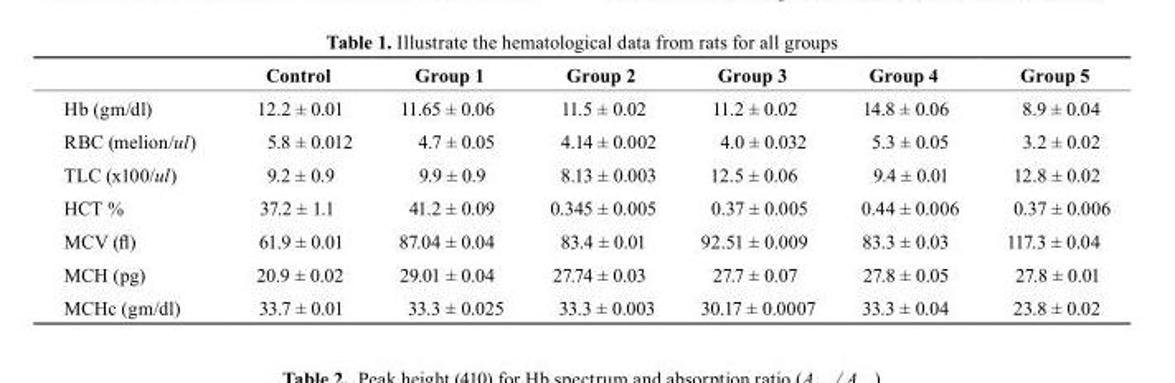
<table><thead><tr><td></td><td>control</td><td>Group 1</td><td>Group 2</td><td>Group 3</td><td>Group 4</td><td>Group 5</td></tr></thead><tbody><tr><td>Hb (gm/dl)</td><td>12.2 ± 0.01</td><td>11.65 ± 0.06</td><td>11.5 ± 0.02</td><td>11.2 ± 0.02</td><td>14.8 ± 0.06</td><td>8.9 ± 0.04</td></tr><tr><td>RBC (melion/ul)</td><td>5.8 ± 0.012</td><td>4.7 ± 0.05</td><td>4.14 ± 0.002</td><td>4.0 ± 0.032</td><td>5.3 ± 0.05</td><td>3.2 ± 0.02</td></tr><tr><td>TLC (x100/ul)</td><td>9.2 ± 0.9</td><td>9.9 ± 0.9</td><td>8.13 ± 0.003</td><td>12.5 ± 0.06</td><td>9.4 ± 0.01</td><td>12.8 ± 0.02</td></tr><tr><td>HCT %</td><td>37.2 ± 1.1</td><td>41.2 ± 0.09</td><td>0.345 ± 0.005</td><td>0.37 ± 0.005</td><td>0.44 ± 0.006</td><td>0.37 ± 0.006</td></tr><tr><td>MCV (fl)</td><td>61.9 ± 0.01</td><td>87.04 ± 0.04</td><td>83.4 ± 0.01</td><td>92.51 ± 0.009</td><td>83.3 ± 0.03</td><td>117.3 ± 0.04</td></tr><tr><td>MCH (pg)</td><td>20.9 ± 0.02</td><td>29.01 ± 0.04</td><td>27.74 ± 0.03</td><td>27.7 ± 0.07</td><td>27.8 ± 0.05</td><td>27.8 ± 0.01</td></tr><tr><td>MCHc (gm/dl)</td><td>33.7 ± 0.01</td><td>33.3 ± 0.025</td><td>33.3 ± 0.003</td><td>30.17 ± 0.0007</td><td>33.3 ± 0.04</td><td>23.8 ± 0.02</td></tr></tbody></table>